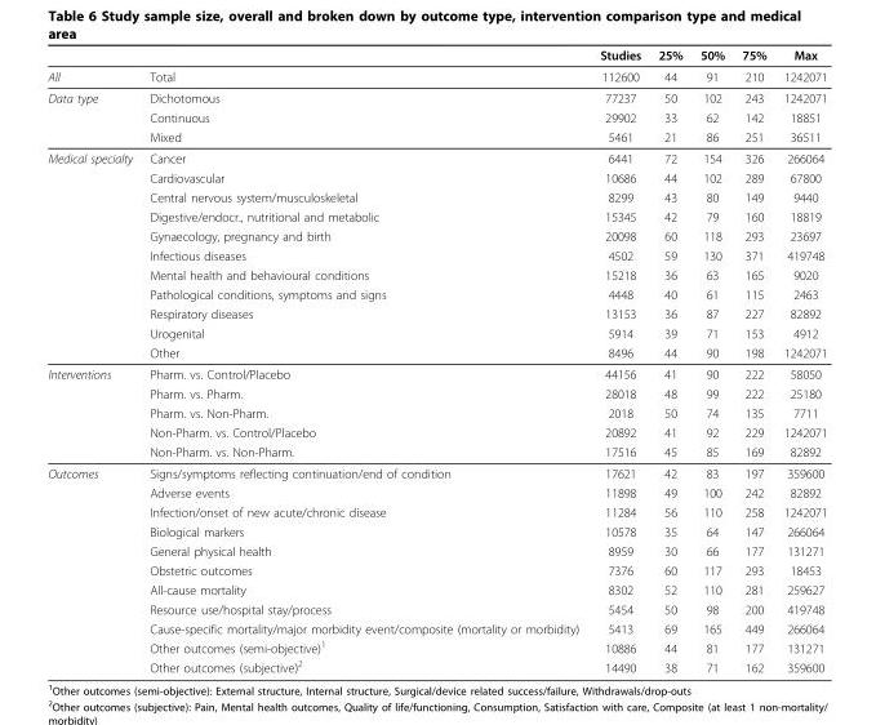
<table><thead><tr><td></td><td></td><td>Studies</td><td>25%</td><td>50%</td><td>75%</td><td>Max</td></tr></thead><tbody><tr><td>All</td><td>Total</td><td>112600</td><td>44</td><td>91</td><td>210</td><td>1242071</td></tr><tr><td rowspan="3">Data type</td><td>Dichotomous</td><td>77237</td><td>50</td><td>102</td><td>243</td><td>1242071</td></tr><tr><td>Continuous</td><td>29902</td><td>33</td><td>62</td><td>142</td><td>18851</td></tr><tr><td>Mixed</td><td>5461</td><td>21</td><td>86</td><td>251</td><td>36511</td></tr><tr><td rowspan="11">Medical specialty</td><td>Cancer</td><td>6441</td><td>72</td><td>154</td><td>326</td><td>266064</td></tr><tr><td>Cardiovascular</td><td>10686</td><td>44</td><td>102</td><td>289</td><td>67800</td></tr><tr><td>Central nervous system/musculoskeletal</td><td>8299</td><td>43</td><td>80</td><td>149</td><td>9440</td></tr><tr><td>Digestive/endocr., nutritional and metabolic</td><td>15345</td><td>42</td><td>79</td><td>160</td><td>18819</td></tr><tr><td>Gynaecology, pregnancy and birth</td><td>20098</td><td>60</td><td>118</td><td>293</td><td>23697</td></tr><tr><td>Infectious diseases</td><td>4502</td><td>59</td><td>130</td><td>371</td><td>419748</td></tr><tr><td>Mental health and behavioural conditions</td><td>15218</td><td>36</td><td>63</td><td>165</td><td>9020</td></tr><tr><td>Pathological conditions, symptoms and signs</td><td>4448</td><td>40</td><td>61</td><td>115</td><td>2463</td></tr><tr><td>Respiratory diseases</td><td>13153</td><td>36</td><td>87</td><td>227</td><td>82892</td></tr><tr><td>Urogenital</td><td>5914</td><td>39</td><td>71</td><td>153</td><td>4912</td></tr><tr><td>Other</td><td>8496</td><td>44</td><td>90</td><td>198</td><td>1242071</td></tr><tr><td rowspan="5">Interventions</td><td>Pharm. vs. Control/Placebo</td><td>44156</td><td>41</td><td>90</td><td>222</td><td>58050</td></tr><tr><td>Pharm. vs. Pharm.</td><td>28018</td><td>48</td><td>99</td><td>222</td><td>25180</td></tr><tr><td>Pharm. vs. Non-Pharm.</td><td>2018</td><td>50</td><td>74</td><td>135</td><td>7711</td></tr><tr><td>Non-Pharm. vs. Control/Placebo</td><td>20892</td><td>41</td><td>92</td><td>229</td><td>1242071</td></tr><tr><td>Non-Pharm. vs. Non-Pharm.</td><td>17516</td><td>45</td><td>85</td><td>169</td><td>82892</td></tr><tr><td rowspan="11">Outcomes</td><td>Signs/symptoms reflecting continuation/end of condition</td><td>17621</td><td>42</td><td>83</td><td>197</td><td>359600</td></tr><tr><td>Adverse events</td><td>11898</td><td>49</td><td>100</td><td>242</td><td>82892</td></tr><tr><td>Infection/onset of new acute/chronic disease</td><td>11284</td><td>56</td><td>110</td><td>258</td><td>1242071</td></tr><tr><td>Biological markers</td><td>10578</td><td>35</td><td>64</td><td>147</td><td>266064</td></tr><tr><td>General physical health</td><td>8959</td><td>30</td><td>66</td><td>177</td><td>131271</td></tr><tr><td>Obstetric outcomes</td><td>7376</td><td>60</td><td>117</td><td>293</td><td>18453</td></tr><tr><td>All-cause mortality</td><td>8302</td><td>52</td><td>110</td><td>281</td><td>259627</td></tr><tr><td>Resource use/hospital stay/process</td><td>5454</td><td>50</td><td>98</td><td>200</td><td>419748</td></tr><tr><td>Cause-specific mortality/major morbidity event/composite (mortality or morbidity)</td><td>5413</td><td>69</td><td>165</td><td>449</td><td>266064</td></tr><tr><td>Other outcomes (semi-objective)<sup>1</sup></td><td>10886</td><td>44</td><td>81</td><td>177</td><td>131271</td></tr><tr><td>Other outcomes (subjective)<sup>2</sup></td><td>14490</td><td>38</td><td>71</td><td>162</td><td>359600</td></tr></tbody></table>